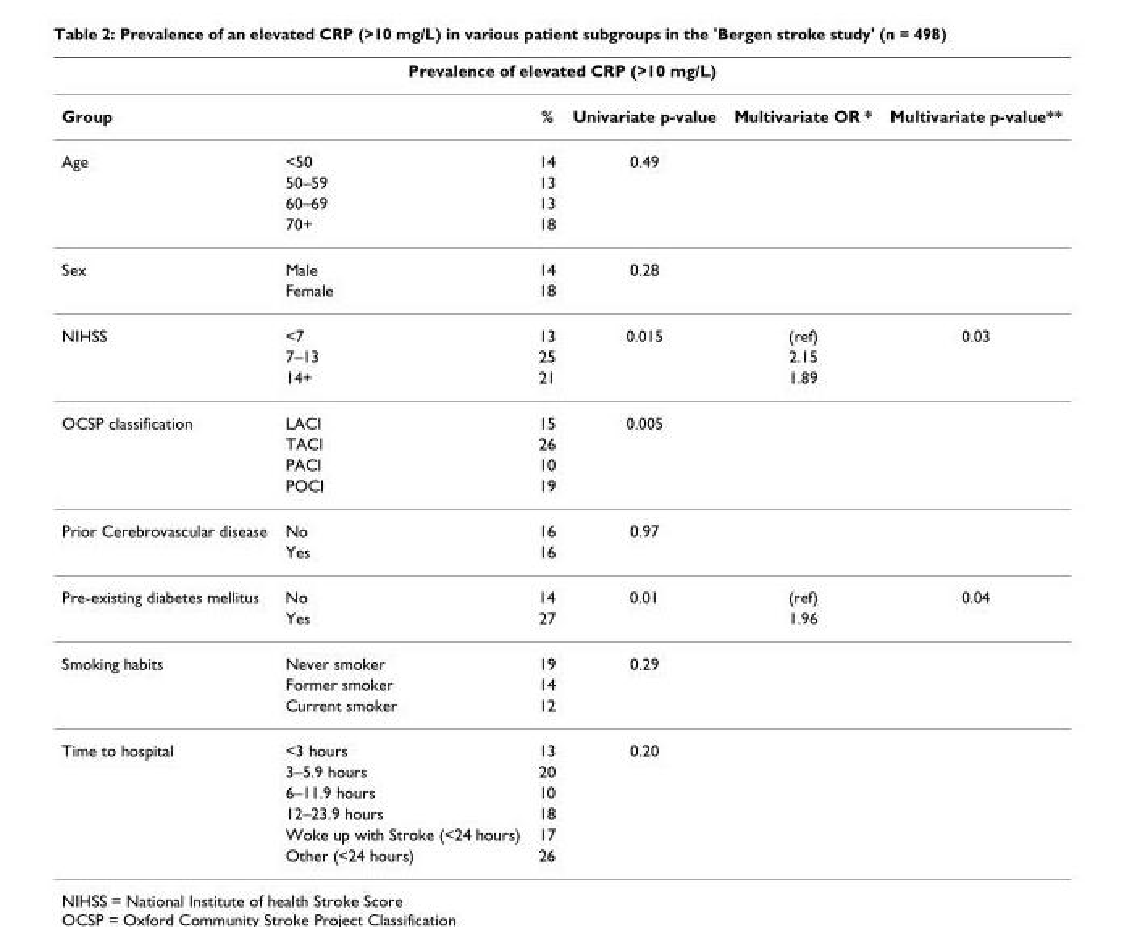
<table><thead><tr><td colspan="6">Prevalence of elevated CRP (&gt;10 mg/L)</td></tr><tr><td>Group</td><td></td><td>%</td><td>Univariate p-value</td><td>Multivariate OR *</td><td>Multivariate p-value**</td></tr></thead><tbody><tr><td rowspan="4">Age</td><td>&lt;50</td><td>14</td><td>0.49</td><td></td><td></td></tr><tr><td>50–59</td><td>13</td><td></td><td></td><td></td></tr><tr><td>60–69</td><td>13</td><td></td><td></td><td></td></tr><tr><td>70+</td><td>18</td><td></td><td></td><td></td></tr><tr><td rowspan="2">Sex</td><td>Male</td><td>14</td><td>0.28</td><td></td><td></td></tr><tr><td>Female</td><td>18</td><td></td><td></td><td></td></tr><tr><td rowspan="3">NIHSS</td><td>&lt;7</td><td>13</td><td>0.015</td><td>(ref)</td><td>0.03</td></tr><tr><td>7–13</td><td>25</td><td></td><td>2.15</td><td></td></tr><tr><td>14+</td><td>21</td><td></td><td>1.89</td><td></td></tr><tr><td rowspan="4">OCSP classification</td><td>LACI</td><td>15</td><td>0.005</td><td></td><td></td></tr><tr><td>TACI</td><td>26</td><td></td><td></td><td></td></tr><tr><td>PACI</td><td>10</td><td></td><td></td><td></td></tr><tr><td>POCI</td><td>19</td><td></td><td></td><td></td></tr><tr><td rowspan="2">Prior Cerebrovascular disease</td><td>No</td><td>16</td><td>0.97</td><td></td><td></td></tr><tr><td>Yes</td><td>16</td><td></td><td></td><td></td></tr><tr><td rowspan="2">Pre-existing diabetes mellitus</td><td>No</td><td>14</td><td>0.01</td><td>(ref)</td><td>0.04</td></tr><tr><td>Yes</td><td>27</td><td></td><td>1.96</td><td></td></tr><tr><td rowspan="3">Smoking habits</td><td>Never smoker</td><td>19</td><td>0.29</td><td></td><td></td></tr><tr><td>Former smoker</td><td>14</td><td></td><td></td><td></td></tr><tr><td>Current smoker</td><td>12</td><td></td><td></td><td></td></tr><tr><td rowspan="6">Time to hospital</td><td>&lt;3 hours</td><td>13</td><td>0.20</td><td></td><td></td></tr><tr><td>3–5.9 hours</td><td>20</td><td></td><td></td><td></td></tr><tr><td>6–11.9 hours</td><td>10</td><td></td><td></td><td></td></tr><tr><td>12–23.9 hours</td><td>18</td><td></td><td></td><td></td></tr><tr><td>Woke up with Stroke (&lt;24 hours)</td><td>17</td><td></td><td></td><td></td></tr><tr><td>Other (&lt;24 hours)</td><td>26</td><td></td><td></td><td></td></tr></tbody></table>